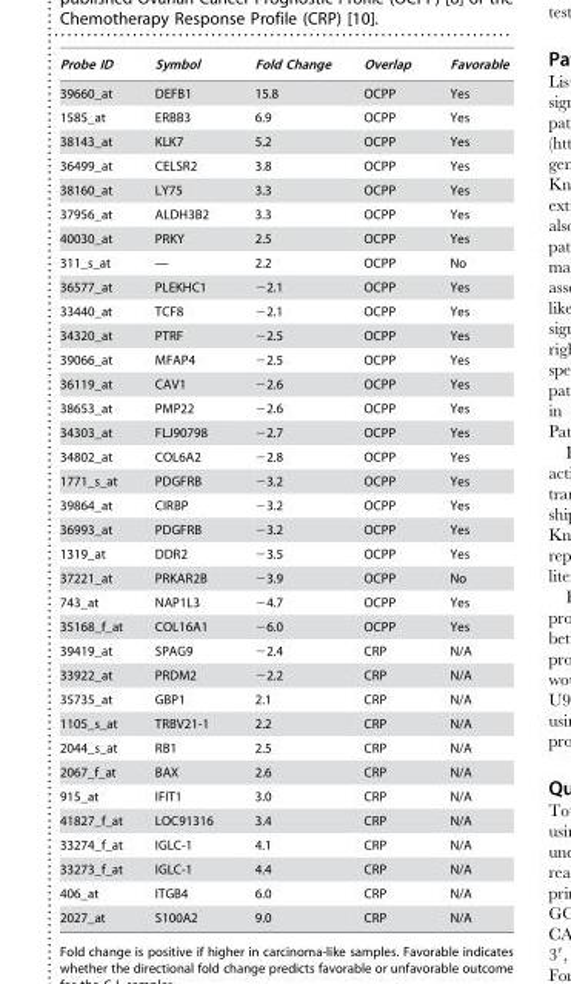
<table><thead><tr><td>Probe ID</td><td>Symbol</td><td>Fold Change</td><td>Overlap</td><td>Favorable</td></tr></thead><tbody><tr><td>39660_at</td><td>DEFB1</td><td>15.8</td><td>OCPP</td><td>Yes</td></tr><tr><td>1585_at</td><td>ERBB3</td><td>6.9</td><td>OCPP</td><td>Yes</td></tr><tr><td>38143_at</td><td>KLK7</td><td>5.2</td><td>OCPP</td><td>Yes</td></tr><tr><td>36499_at</td><td>CELSR2</td><td>3.8</td><td>OCPP</td><td>Yes</td></tr><tr><td>38160_at</td><td>LY75</td><td>3.3</td><td>OCPP</td><td>Yes</td></tr><tr><td>37956_at</td><td>ALDH3B2</td><td>3.3</td><td>OCPP</td><td>Yes</td></tr><tr><td>40030_at</td><td>PRKY</td><td>2.5</td><td>OCPP</td><td>Yes</td></tr><tr><td>311_s_at</td><td>—</td><td>2.2</td><td>OCPP</td><td>No</td></tr><tr><td>36577_at</td><td>PLEKHC1</td><td>−2.1</td><td>OCPP</td><td>Yes</td></tr><tr><td>33440_at</td><td>TCF8</td><td>−2.1</td><td>OCPP</td><td>Yes</td></tr><tr><td>34320_at</td><td>PTRF</td><td>−2.5</td><td>OCPP</td><td>Yes</td></tr><tr><td>39066_at</td><td>MFAP4</td><td>−2.5</td><td>OCPP</td><td>Yes</td></tr><tr><td>36119_at</td><td>CAV1</td><td>−2.6</td><td>OCPP</td><td>Yes</td></tr><tr><td>38653_at</td><td>PMP22</td><td>−2.6</td><td>OCPP</td><td>Yes</td></tr><tr><td>34303_at</td><td>FLJ90798</td><td>−2.7</td><td>OCPP</td><td>Yes</td></tr><tr><td>34802_at</td><td>COL6A2</td><td>−2.8</td><td>OCPP</td><td>Yes</td></tr><tr><td>1771_s_at</td><td>PDGFRB</td><td>−3.2</td><td>OCPP</td><td>Yes</td></tr><tr><td>39864_at</td><td>CIRBP</td><td>−3.2</td><td>OCPP</td><td>Yes</td></tr><tr><td>36993_at</td><td>PDGFRB</td><td>−3.2</td><td>OCPP</td><td>Yes</td></tr><tr><td>1319_at</td><td>DDR2</td><td>−3.5</td><td>OCPP</td><td>Yes</td></tr><tr><td>37221_at</td><td>PRKAR2B</td><td>−3.9</td><td>OCPP</td><td>No</td></tr><tr><td>743_at</td><td>NAP1L3</td><td>−4.7</td><td>OCPP</td><td>Yes</td></tr><tr><td>35168_f_at</td><td>COL16A1</td><td>−6.0</td><td>OCPP</td><td>Yes</td></tr><tr><td>39419_at</td><td>SPAG9</td><td>−2.4</td><td>CRP</td><td>N/A</td></tr><tr><td>33922_at</td><td>PRDM2</td><td>−2.2</td><td>CRP</td><td>N/A</td></tr><tr><td>35735_at</td><td>GBP1</td><td>2.1</td><td>CRP</td><td>N/A</td></tr><tr><td>1105_s_at</td><td>TRBV21-1</td><td>2.2</td><td>CRP</td><td>N/A</td></tr><tr><td>2044_s_at</td><td>RB1</td><td>2.5</td><td>CRP</td><td>N/A</td></tr><tr><td>2067_f_at</td><td>BAX</td><td>2.6</td><td>CRP</td><td>N/A</td></tr><tr><td>915_at</td><td>IFIT1</td><td>3.0</td><td>CRP</td><td>N/A</td></tr><tr><td>41827_f_at</td><td>LOC91316</td><td>3.4</td><td>CRP</td><td>N/A</td></tr><tr><td>33274_f_at</td><td>IGLC-1</td><td>4.1</td><td>CRP</td><td>N/A</td></tr><tr><td>33273_f_at</td><td>IGLC-1</td><td>4.4</td><td>CRP</td><td>N/A</td></tr><tr><td>406_at</td><td>ITGB4</td><td>6.0</td><td>CRP</td><td>N/A</td></tr><tr><td>2027_at</td><td>S100A2</td><td>9.0</td><td>CRP</td><td>N/A</td></tr></tbody></table>